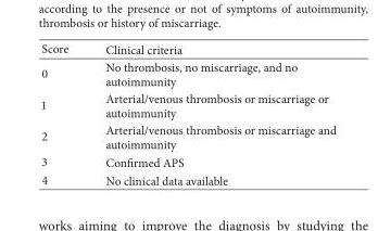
<table><thead><tr><td>Score</td><td>Clinical criteria</td></tr></thead><tbody><tr><td>0</td><td>No thrombosis, no miscarriage, and no autoimmunity</td></tr><tr><td>1</td><td>Arterial/venous thrombosis or miscarriage or autoimmunity</td></tr><tr><td>2</td><td>Arterial/venous thrombosis or miscarriage and autoimmunity</td></tr><tr><td>3</td><td>Confirmed APS</td></tr><tr><td>4</td><td>No clinical data available</td></tr></tbody></table>